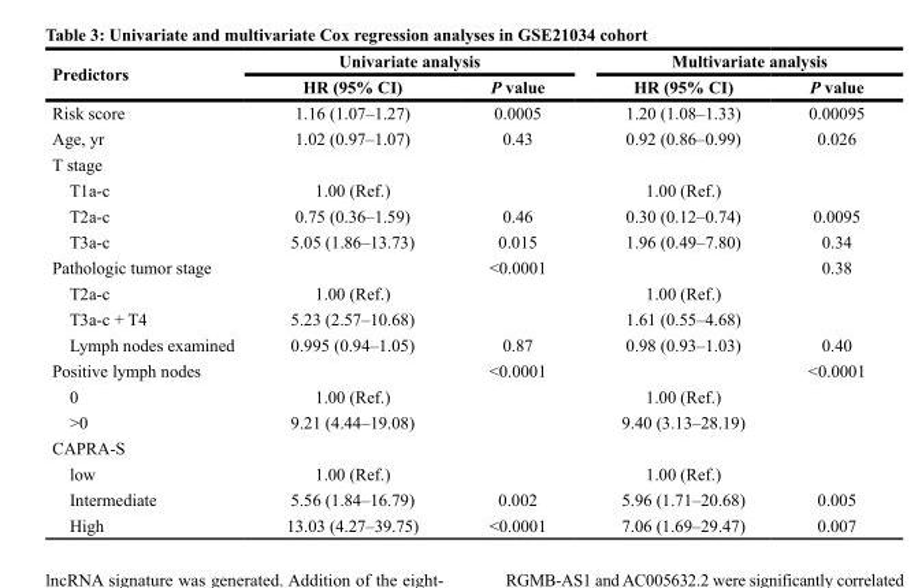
<table><thead><tr><td rowspan="2">Predictors</td><td colspan="2">Univariate analysis</td><td colspan="2">Multivariate analysis</td></tr><tr><td>HR (95% CI)</td><td>P value</td><td>HR (95% CI)</td><td>P value</td></tr></thead><tbody><tr><td>Risk score</td><td>1.16 (1.07–1.27)</td><td>0.0005</td><td>1.20 (1.08–1.33)</td><td>0.00095</td></tr><tr><td>Age, yr</td><td>1.02 (0.97–1.07)</td><td>0.43</td><td>0.92 (0.86–0.99)</td><td>0.026</td></tr><tr><td colspan="5">T stage</td></tr><tr><td>T1a-c</td><td>1.00 (Ref.)</td><td></td><td>1.00 (Ref.)</td><td></td></tr><tr><td>T2a-c</td><td>0.75 (0.36–1.59)</td><td>0.46</td><td>0.30 (0.12–0.74)</td><td>0.0095</td></tr><tr><td>T3a-c</td><td>5.05 (1.86–13.73)</td><td>0.015</td><td>1.96 (0.49–7.80)</td><td>0.34</td></tr><tr><td>Pathologic tumor stage</td><td></td><td>&lt;0.0001</td><td></td><td>0.38</td></tr><tr><td>T2a-c</td><td>1.00 (Ref.)</td><td></td><td>1.00 (Ref.)</td><td></td></tr><tr><td>T3a-c + T4</td><td>5.23 (2.57–10.68)</td><td></td><td>1.61 (0.55–4.68)</td><td></td></tr><tr><td>Lymph nodes examined</td><td>0.995 (0.94–1.05)</td><td>0.87</td><td>0.98 (0.93–1.03)</td><td>0.40</td></tr><tr><td>Positive lymph nodes</td><td></td><td>&lt;0.0001</td><td></td><td>&lt;0.0001</td></tr><tr><td>0</td><td>1.00 (Ref.)</td><td></td><td>1.00 (Ref.)</td><td></td></tr><tr><td>&gt;0</td><td>9.21 (4.44–19.08)</td><td></td><td>9.40 (3.13–28.19)</td><td></td></tr><tr><td colspan="5">CAPRA-S</td></tr><tr><td>low</td><td>1.00 (Ref.)</td><td></td><td>1.00 (Ref.)</td><td></td></tr><tr><td>Intermediate</td><td>5.56 (1.84–16.79)</td><td>0.002</td><td>5.96 (1.71–20.68)</td><td>0.005</td></tr><tr><td>High</td><td>13.03 (4.27–39.75)</td><td>&lt;0.0001</td><td>7.06 (1.69–29.47)</td><td>0.007</td></tr></tbody></table>